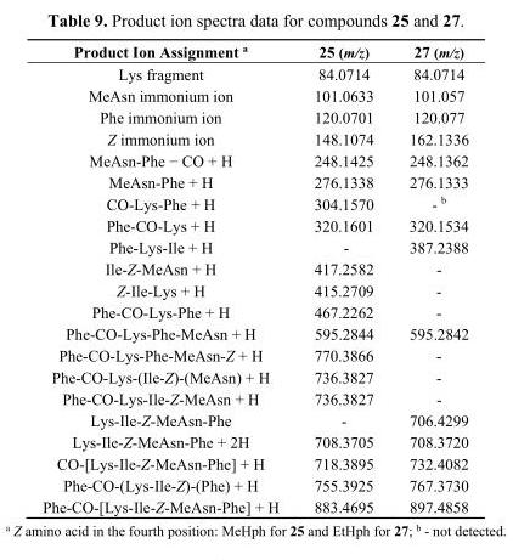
<table><thead><tr><td>Product Ion Assignment <sup>a</sup></td><td>25 (m/z)</td><td>27 (m/z)</td></tr></thead><tbody><tr><td>Lys fragment</td><td>84.0714</td><td>84.0714</td></tr><tr><td>MeAsn immonium ion</td><td>101.0633</td><td>101.057</td></tr><tr><td>Phe immonium ion</td><td>120.0701</td><td>120.077</td></tr><tr><td>Z immonium ion</td><td>148.1074</td><td>162.1336</td></tr><tr><td>MeAsn-Phe − CO + H</td><td>248.1425</td><td>248.1362</td></tr><tr><td>MeAsn-Phe + H</td><td>276.1338</td><td>276.1333</td></tr><tr><td>CO-Lys-Phe + H</td><td>304.1570</td><td>- <sup>b</sup></td></tr><tr><td>Phe-CO-Lys + H</td><td>320.1601</td><td>320.1534</td></tr><tr><td>Phe-Lys-Ile + H</td><td>-</td><td>387.2388</td></tr><tr><td>Ile-Z-MeAsn + H</td><td>417.2582</td><td>-</td></tr><tr><td>Z-Ile-Lys + H</td><td>415.2709</td><td>-</td></tr><tr><td>Phe-CO-Lys-Phe + H</td><td>467.2262</td><td>-</td></tr><tr><td>Phe-CO-Lys-Phe-MeAsn + H</td><td>595.2844</td><td>595.2842</td></tr><tr><td>Phe-CO-Lys-Phe-MeAsn-Z + H</td><td>770.3866</td><td>-</td></tr><tr><td>Phe-CO-Lys-(Ile-Z)-(MeAsn) + H</td><td>736.3827</td><td>-</td></tr><tr><td>Phe-CO-Lys-Ile-Z-MeAsn + H</td><td>736.3827</td><td>-</td></tr><tr><td>Lys-Ile-Z-MeAsn-Phe</td><td>-</td><td>706.4299</td></tr><tr><td>Lys-Ile-Z-MeAsn-Phe + 2H</td><td>708.3705</td><td>708.3720</td></tr><tr><td>CO-[Lys-Ile-Z-MeAsn-Phe] + H</td><td>718.3895</td><td>732.4082</td></tr><tr><td>Phe-CO-(Lys-Ile-Z)-(Phe) + H</td><td>755.3925</td><td>767.3730</td></tr><tr><td>Phe-CO-[Lys-Ile-Z-MeAsn-Phe] + H</td><td>883.4695</td><td>897.4858</td></tr></tbody></table>